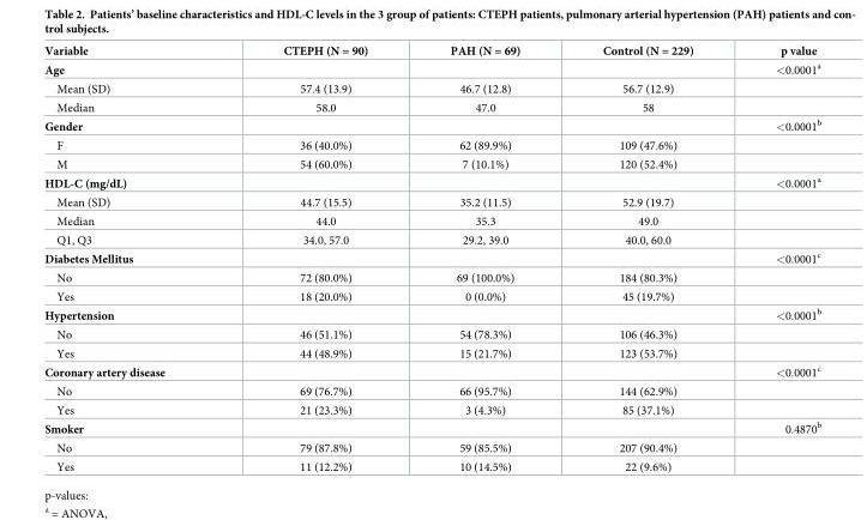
<table><thead><tr><td>Variable</td><td>CTEPH (N = 90)</td><td>PAH (N = 69)</td><td>Control (N = 229)</td><td>p value</td></tr></thead><tbody><tr><td>Age</td><td></td><td></td><td></td><td>&lt;0.0001<sup>a</sup></td></tr><tr><td>Mean (SD)</td><td>57.4 (13.9)</td><td>46.7 (12.8)</td><td>56.7 (12.9)</td><td></td></tr><tr><td>Median</td><td>58.0</td><td>47.0</td><td>58</td><td></td></tr><tr><td>Gender</td><td></td><td></td><td></td><td>&lt;0.0001<sup>b</sup></td></tr><tr><td>F</td><td>36 (40.0%)</td><td>62 (89.9%)</td><td>109 (47.6%)</td><td></td></tr><tr><td>M</td><td>54 (60.0%)</td><td>7 (10.1%)</td><td>120 (52.4%)</td><td></td></tr><tr><td>HDL-C (mg/dL)</td><td></td><td></td><td></td><td>&lt;0.0001<sup>a</sup></td></tr><tr><td>Mean (SD)</td><td>44.7 (15.5)</td><td>35.2 (11.5)</td><td>52.9 (19.7)</td><td></td></tr><tr><td>Median</td><td>44.0</td><td>35.3</td><td>49.0</td><td></td></tr><tr><td>Q1, Q3</td><td>34.0, 57.0</td><td>29.2, 39.0</td><td>40.0, 60.0</td><td></td></tr><tr><td>Diabetes Mellitus</td><td></td><td></td><td></td><td>&lt;0.0001<sup>c</sup></td></tr><tr><td>No</td><td>72 (80.0%)</td><td>69 (100.0%)</td><td>184 (80.3%)</td><td></td></tr><tr><td>Yes</td><td>18 (20.0%)</td><td>0 (0.0%)</td><td>45 (19.7%)</td><td></td></tr><tr><td>Hypertension</td><td></td><td></td><td></td><td>&lt;0.0001<sup>b</sup></td></tr><tr><td>No</td><td>46 (51.1%)</td><td>54 (78.3%)</td><td>106 (46.3%)</td><td></td></tr><tr><td>Yes</td><td>44 (48.9%)</td><td>15 (21.7%)</td><td>123 (53.7%)</td><td></td></tr><tr><td>Coronary artery disease</td><td></td><td></td><td></td><td>&lt;0.0001<sup>c</sup></td></tr><tr><td>No</td><td>69 (76.7%)</td><td>66 (95.7%)</td><td>144 (62.9%)</td><td></td></tr><tr><td>Yes</td><td>21 (23.3%)</td><td>3 (4.3%)</td><td>85 (37.1%)</td><td></td></tr><tr><td>Smoker</td><td></td><td></td><td></td><td>0.4870<sup>b</sup></td></tr><tr><td>No</td><td>79 (87.8%)</td><td>59 (85.5%)</td><td>207 (90.4%)</td><td></td></tr><tr><td>Yes</td><td>11 (12.2%)</td><td>10 (14.5%)</td><td>22 (9.6%)</td><td></td></tr></tbody></table>